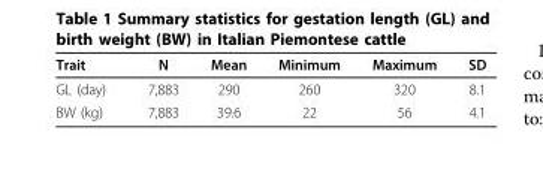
<table><thead><tr><td>Trait</td><td>N</td><td>Mean</td><td>Minimum</td><td>Maximum</td><td>SD</td></tr></thead><tbody><tr><td>GL (day)</td><td>7,883</td><td>290</td><td>260</td><td>320</td><td>8.1</td></tr><tr><td>BW (kg)</td><td>7,883</td><td>39.6</td><td>22</td><td>56</td><td>4.1</td></tr></tbody></table>